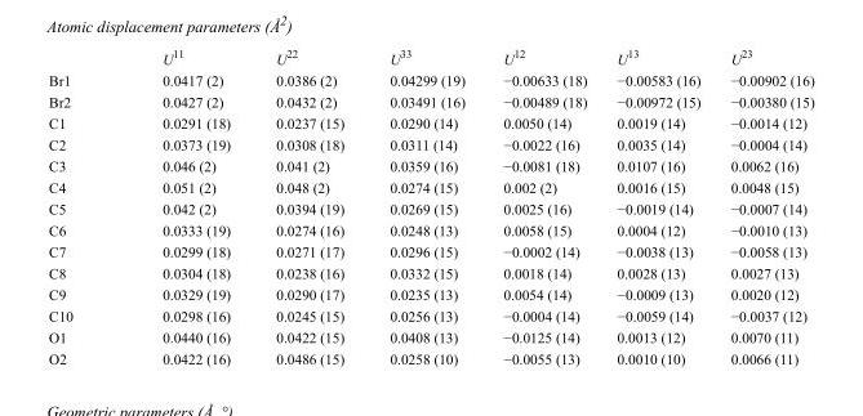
<table><thead><tr><td></td><td>U<sup>11</sup></td><td>U<sup>22</sup></td><td>U<sup>33</sup></td><td>U<sup>12</sup></td><td>U<sup>13</sup></td><td>U<sup>23</sup></td></tr></thead><tbody><tr><td>Br1</td><td>0.0417 (2)</td><td>0.0386 (2)</td><td>0.04299 (19)</td><td>−0.00633 (18)</td><td>−0.00583 (16)</td><td>−0.00902 (16)</td></tr><tr><td>Br2</td><td>0.0427 (2)</td><td>0.0432 (2)</td><td>0.03491 (16)</td><td>−0.00489 (18)</td><td>−0.00972 (15)</td><td>−0.00380 (15)</td></tr><tr><td>C1</td><td>0.0291 (18)</td><td>0.0237 (15)</td><td>0.0290 (14)</td><td>0.0050 (14)</td><td>0.0019 (14)</td><td>−0.0014 (12)</td></tr><tr><td>C2</td><td>0.0373 (19)</td><td>0.0308 (18)</td><td>0.0311 (14)</td><td>−0.0022 (16)</td><td>0.0035 (14)</td><td>−0.0004 (14)</td></tr><tr><td>C3</td><td>0.046 (2)</td><td>0.041 (2)</td><td>0.0359 (16)</td><td>−0.0081 (18)</td><td>0.0107 (16)</td><td>0.0062 (16)</td></tr><tr><td>C4</td><td>0.051 (2)</td><td>0.048 (2)</td><td>0.0274 (15)</td><td>0.002 (2)</td><td>0.0016 (15)</td><td>0.0048 (15)</td></tr><tr><td>C5</td><td>0.042 (2)</td><td>0.0394 (19)</td><td>0.0269 (15)</td><td>0.0025 (16)</td><td>−0.0019 (14)</td><td>−0.0007 (14)</td></tr><tr><td>C6</td><td>0.0333 (19)</td><td>0.0274 (16)</td><td>0.0248 (13)</td><td>0.0058 (15)</td><td>0.0004 (12)</td><td>−0.0010 (13)</td></tr><tr><td>C7</td><td>0.0299 (18)</td><td>0.0271 (17)</td><td>0.0296 (15)</td><td>−0.0002 (14)</td><td>−0.0038 (13)</td><td>−0.0058 (13)</td></tr><tr><td>C8</td><td>0.0304 (18)</td><td>0.0238 (16)</td><td>0.0332 (15)</td><td>0.0018 (14)</td><td>0.0028 (13)</td><td>0.0027 (13)</td></tr><tr><td>C9</td><td>0.0329 (19)</td><td>0.0290 (17)</td><td>0.0235 (13)</td><td>0.0054 (14)</td><td>−0.0009 (13)</td><td>0.0020 (12)</td></tr><tr><td>C10</td><td>0.0298 (16)</td><td>0.0245 (15)</td><td>0.0256 (13)</td><td>−0.0004 (14)</td><td>−0.0059 (14)</td><td>−0.0037 (12)</td></tr><tr><td>O1</td><td>0.0440 (16)</td><td>0.0422 (15)</td><td>0.0408 (13)</td><td>−0.0125 (14)</td><td>0.0013 (12)</td><td>0.0070 (11)</td></tr><tr><td>O2</td><td>0.0422 (16)</td><td>0.0486 (15)</td><td>0.0258 (10)</td><td>−0.0055 (13)</td><td>0.0010 (10)</td><td>0.0066 (11)</td></tr></tbody></table>